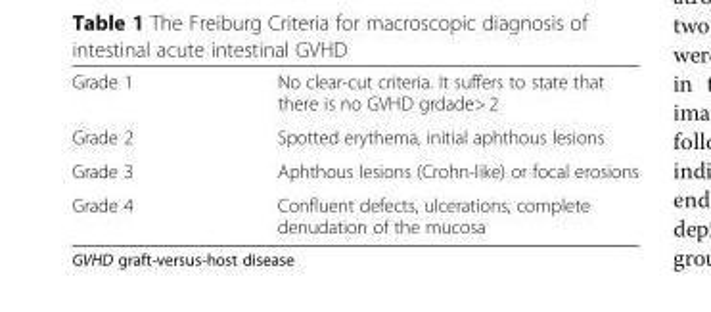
<table><tbody><tr><td>Grade 1</td><td>No clear-cut criteria. It suffers to state that there is no GVHD grdade&gt; 2</td></tr><tr><td>Grade 2</td><td>Spotted erythema, initial aphthous lesions</td></tr><tr><td>Grade 3</td><td>Aphthous lesions (Crohn-like) or focal erosions</td></tr><tr><td>Grade 4</td><td>Confluent defects, ulcerations, complete denudation of the mucosa</td></tr></tbody></table>